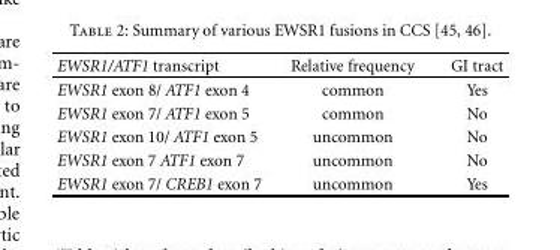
<table><thead><tr><td>EWSR1/ATF1 transcript</td><td>Relative frequency</td><td>GI tract</td></tr></thead><tbody><tr><td>EWSR1 exon 8/ ATF1 exon 4</td><td>common</td><td>Yes</td></tr><tr><td>EWSR1 exon 7/ ATF1 exon 5</td><td>common</td><td>No</td></tr><tr><td>EWSR1 exon 10/ ATF1 exon 5</td><td>uncommon</td><td>No</td></tr><tr><td>EWSR1 exon 7 ATF1 exon 7</td><td>uncommon</td><td>No</td></tr><tr><td>EWSR1 exon 7/ CREB1 exon 7</td><td>uncommon</td><td>Yes</td></tr></tbody></table>